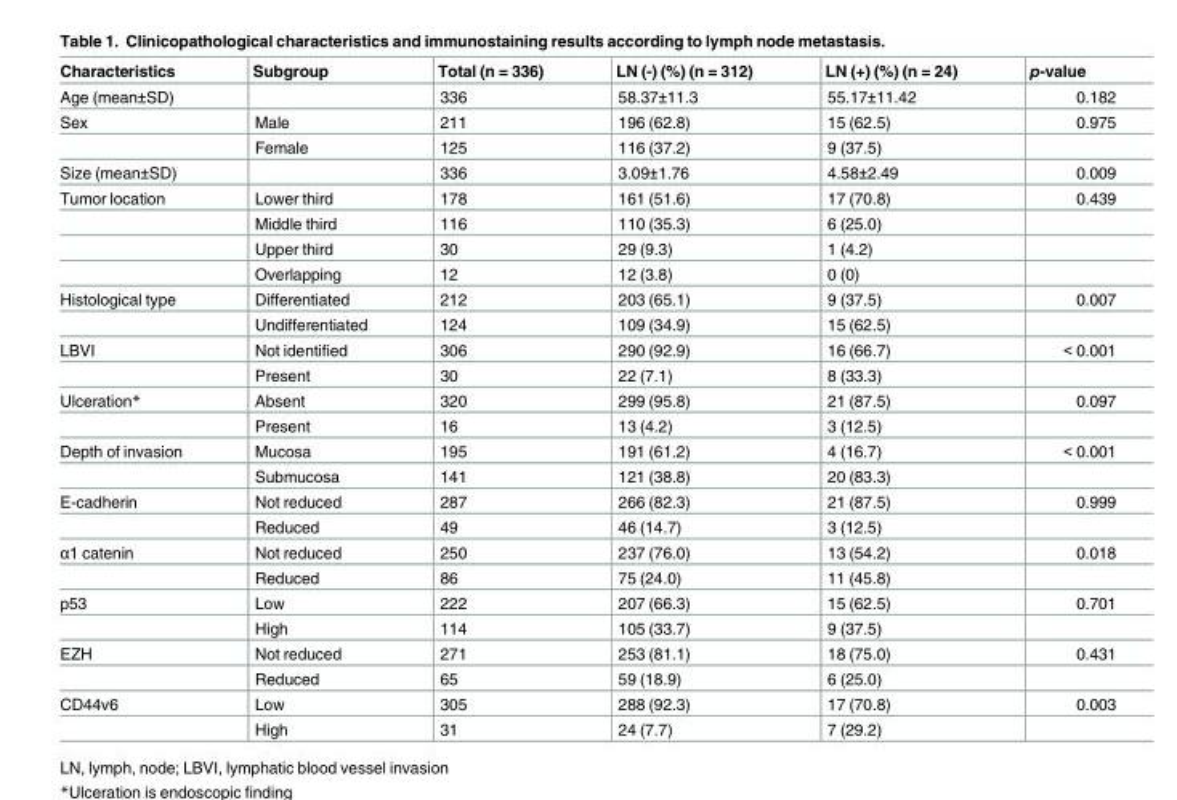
<table><thead><tr><td>Characteristics</td><td>Subgroup</td><td>Total (n = 336)</td><td>LN (-) (%) (n = 312)</td><td>LN (+) (%) (n = 24)</td><td>p-value</td></tr></thead><tbody><tr><td>Age (mean±SD)</td><td></td><td>336</td><td>58.37±11.3</td><td>55.17±11.42</td><td>0.182</td></tr><tr><td rowspan="2">Sex</td><td>Male</td><td>211</td><td>196 (62.8)</td><td>15 (62.5)</td><td>0.975</td></tr><tr><td>Female</td><td>125</td><td>116 (37.2)</td><td>9 (37.5)</td><td></td></tr><tr><td>Size (mean±SD)</td><td></td><td>336</td><td>3.09±1.76</td><td>4.58±2.49</td><td>0.009</td></tr><tr><td rowspan="4">Tumor location</td><td>Lower third</td><td>178</td><td>161 (51.6)</td><td>17 (70.8)</td><td>0.439</td></tr><tr><td>Middle third</td><td>116</td><td>110 (35.3)</td><td>6 (25.0)</td><td></td></tr><tr><td>Upper third</td><td>30</td><td>29 (9.3)</td><td>1 (4.2)</td><td></td></tr><tr><td>Overlapping</td><td>12</td><td>12 (3.8)</td><td>0 (0)</td><td></td></tr><tr><td rowspan="2">Histological type</td><td>Differentiated</td><td>212</td><td>203 (65.1)</td><td>9 (37.5)</td><td>0.007</td></tr><tr><td>Undifferentiated</td><td>124</td><td>109 (34.9)</td><td>15 (62.5)</td><td></td></tr><tr><td rowspan="2">LBVI</td><td>Not identified</td><td>306</td><td>290 (92.9)</td><td>16 (66.7)</td><td>&lt; 0.001</td></tr><tr><td>Present</td><td>30</td><td>22 (7.1)</td><td>8 (33.3)</td><td></td></tr><tr><td rowspan="2">Ulceration*</td><td>Absent</td><td>320</td><td>299 (95.8)</td><td>21 (87.5)</td><td>0.097</td></tr><tr><td>Present</td><td>16</td><td>13 (4.2)</td><td>3 (12.5)</td><td></td></tr><tr><td rowspan="2">Depth of invasion</td><td>Mucosa</td><td>195</td><td>191 (61.2)</td><td>4 (16.7)</td><td>&lt; 0.001</td></tr><tr><td>Submucosa</td><td>141</td><td>121 (38.8)</td><td>20 (83.3)</td><td></td></tr><tr><td rowspan="2">E-cadherin</td><td>Not reduced</td><td>287</td><td>266 (82.3)</td><td>21 (87.5)</td><td>0.999</td></tr><tr><td>Reduced</td><td>49</td><td>46 (14.7)</td><td>3 (12.5)</td><td></td></tr><tr><td rowspan="2">α1 catenin</td><td>Not reduced</td><td>250</td><td>237 (76.0)</td><td>13 (54.2)</td><td>0.018</td></tr><tr><td>Reduced</td><td>86</td><td>75 (24.0)</td><td>11 (45.8)</td><td></td></tr><tr><td rowspan="2">p53</td><td>Low</td><td>222</td><td>207 (66.3)</td><td>15 (62.5)</td><td>0.701</td></tr><tr><td>High</td><td>114</td><td>105 (33.7)</td><td>9 (37.5)</td><td></td></tr><tr><td rowspan="2">EZH</td><td>Not reduced</td><td>271</td><td>253 (81.1)</td><td>18 (75.0)</td><td>0.431</td></tr><tr><td>Reduced</td><td>65</td><td>59 (18.9)</td><td>6 (25.0)</td><td></td></tr><tr><td rowspan="2">CD44v6</td><td>Low</td><td>305</td><td>288 (92.3)</td><td>17 (70.8)</td><td>0.003</td></tr><tr><td>High</td><td>31</td><td>24 (7.7)</td><td>7 (29.2)</td><td></td></tr></tbody></table>